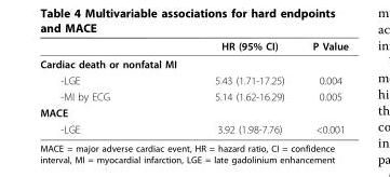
<table><thead><tr><td></td><td>HR (95% CI)</td><td>P Value</td></tr></thead><tbody><tr><td colspan="3">Cardiac death or nonfatal MI</td></tr><tr><td>-LGE</td><td>5.43 (1.71-17.25)</td><td>0.004</td></tr><tr><td>-MI by ECG</td><td>5.14 (1.62-16.29)</td><td>0.005</td></tr><tr><td colspan="3">MACE</td></tr><tr><td>-LGE</td><td>3.92 (1.98-7.76)</td><td>&lt;0.001</td></tr></tbody></table>